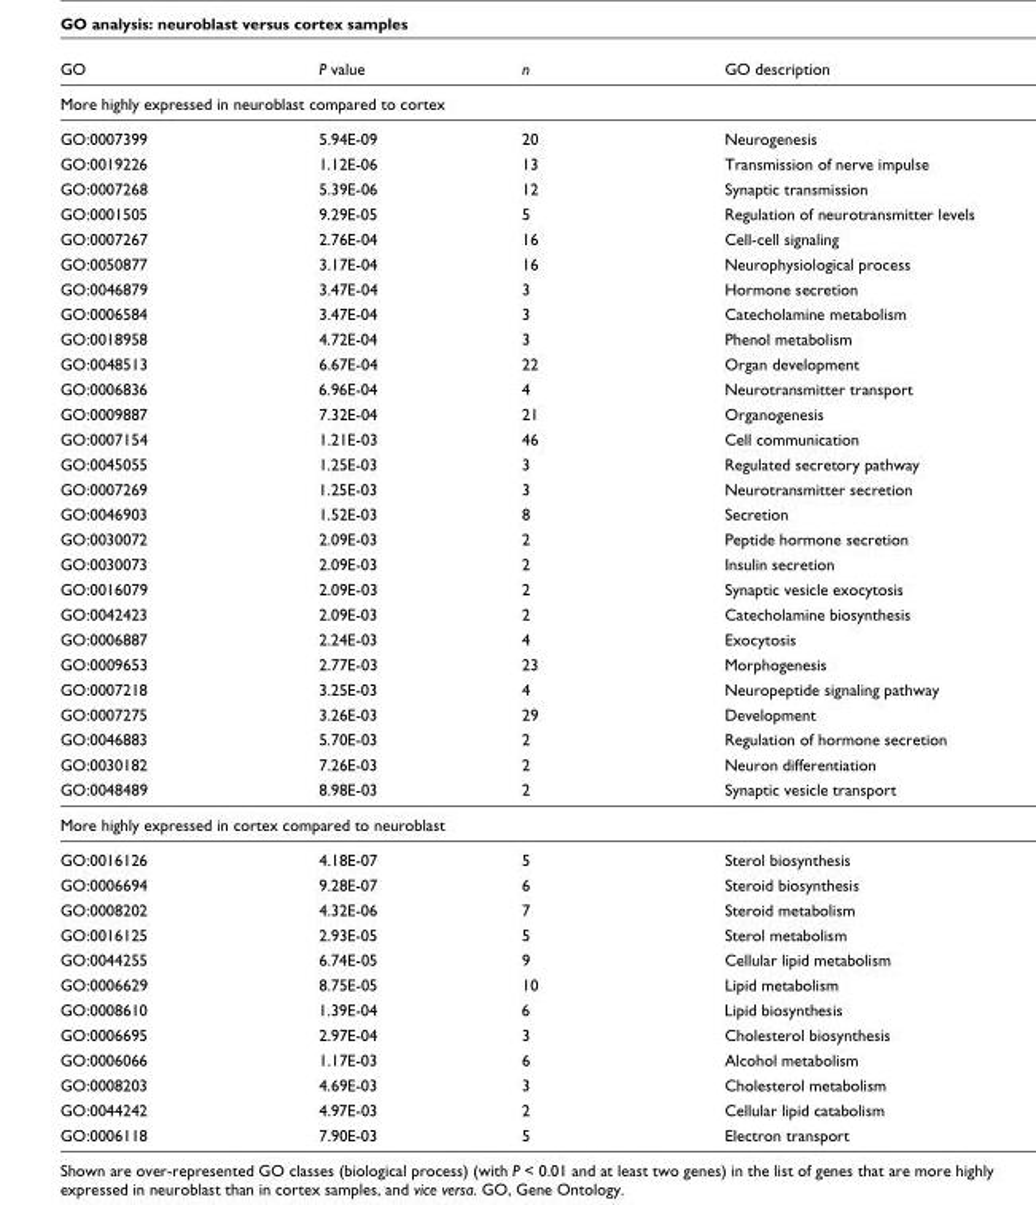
<table><thead><tr><td>GO</td><td>P value</td><td>n</td><td>GO description</td></tr></thead><tbody><tr><td colspan="4">More highly expressed in neuroblast compared to cortex</td></tr><tr><td>GO:0007399</td><td>5.94E-09</td><td>20</td><td>Neurogenesis</td></tr><tr><td>GO:0019226</td><td>1.12E-06</td><td>13</td><td>Transmission of nerve impulse</td></tr><tr><td>GO:0007268</td><td>5.39E-06</td><td>12</td><td>Synaptic transmission</td></tr><tr><td>GO:0001505</td><td>9.29E-05</td><td>5</td><td>Regulation of neurotransmitter levels</td></tr><tr><td>GO:0007267</td><td>2.76E-04</td><td>16</td><td>Cell-cell signaling</td></tr><tr><td>GO:0050877</td><td>3.17E-04</td><td>16</td><td>Neurophysiological process</td></tr><tr><td>GO:0046879</td><td>3.47E-04</td><td>3</td><td>Hormone secretion</td></tr><tr><td>GO:0006584</td><td>3.47E-04</td><td>3</td><td>Catecholamine metabolism</td></tr><tr><td>GO:0018958</td><td>4.72E-04</td><td>3</td><td>Phenol metabolism</td></tr><tr><td>GO:0048513</td><td>6.67E-04</td><td>22</td><td>Organ development</td></tr><tr><td>GO:0006836</td><td>6.96E-04</td><td>4</td><td>Neurotransmitter transport</td></tr><tr><td>GO:0009887</td><td>7.32E-04</td><td>21</td><td>Organogenesis</td></tr><tr><td>GO:0007154</td><td>1.21E-03</td><td>46</td><td>Cell communication</td></tr><tr><td>GO:0045055</td><td>1.25E-03</td><td>3</td><td>Regulated secretory pathway</td></tr><tr><td>GO:0007269</td><td>1.25E-03</td><td>3</td><td>Neurotransmitter secretion</td></tr><tr><td>GO:0046903</td><td>1.52E-03</td><td>8</td><td>Secretion</td></tr><tr><td>GO:0030072</td><td>2.09E-03</td><td>2</td><td>Peptide hormone secretion</td></tr><tr><td>GO:0030073</td><td>2.09E-03</td><td>2</td><td>Insulin secretion</td></tr><tr><td>GO:0016079</td><td>2.09E-03</td><td>2</td><td>Synaptic vesicle exocytosis</td></tr><tr><td>GO:0042423</td><td>2.09E-03</td><td>2</td><td>Catecholamine biosynthesis</td></tr><tr><td>GO:0006887</td><td>2.24E-03</td><td>4</td><td>Exocytosis</td></tr><tr><td>GO:0009653</td><td>2.77E-03</td><td>23</td><td>Morphogenesis</td></tr><tr><td>GO:0007218</td><td>3.25E-03</td><td>4</td><td>Neuropeptide signaling pathway</td></tr><tr><td>GO:0007275</td><td>3.26E-03</td><td>29</td><td>Development</td></tr><tr><td>GO:0046883</td><td>5.70E-03</td><td>2</td><td>Regulation of hormone secretion</td></tr><tr><td>GO:0030182</td><td>7.26E-03</td><td>2</td><td>Neuron differentiation</td></tr><tr><td>GO:0048489</td><td>8.98E-03</td><td>2</td><td>Synaptic vesicle transport</td></tr><tr><td colspan="4">More highly expressed in cortex compared to neuroblast</td></tr><tr><td>GO:0016126</td><td>4.18E-07</td><td>5</td><td>Sterol biosynthesis</td></tr><tr><td>GO:0006694</td><td>9.28E-07</td><td>6</td><td>Steroid biosynthesis</td></tr><tr><td>GO:0008202</td><td>4.32E-06</td><td>7</td><td>Steroid metabolism</td></tr><tr><td>GO:0016125</td><td>2.93E-05</td><td>5</td><td>Sterol metabolism</td></tr><tr><td>GO:0044255</td><td>6.74E-05</td><td>9</td><td>Cellular lipid metabolism</td></tr><tr><td>GO:0006629</td><td>8.75E-05</td><td>10</td><td>Lipid metabolism</td></tr><tr><td>GO:0008610</td><td>1.39E-04</td><td>6</td><td>Lipid biosynthesis</td></tr><tr><td>GO:0006695</td><td>2.97E-04</td><td>3</td><td>Cholesterol biosynthesis</td></tr><tr><td>GO:0006066</td><td>1.17E-03</td><td>6</td><td>Alcohol metabolism</td></tr><tr><td>GO:0008203</td><td>4.69E-03</td><td>3</td><td>Cholesterol metabolism</td></tr><tr><td>GO:0044242</td><td>4.97E-03</td><td>2</td><td>Cellular lipid catabolism</td></tr><tr><td>GO:0006118</td><td>7.90E-03</td><td>5</td><td>Electron transport</td></tr></tbody></table>